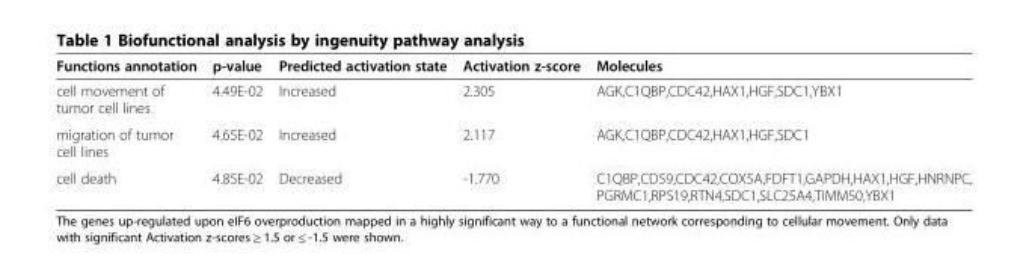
<table><thead><tr><td>Functions annotation</td><td>p-value</td><td>Predicted activation state</td><td>Activation z-score</td><td>Molecules</td></tr></thead><tbody><tr><td>cell movement of tumor cell lines</td><td>4.49E-02</td><td>Increased</td><td>2.305</td><td>AGK,C1QBP,CDC42,HAX1,HGF,SDC1,YBX1</td></tr><tr><td>migration of tumor cell lines</td><td>4.65E-02</td><td>Increased</td><td>2.117</td><td>AGK,C1QBP,CDC42,HAX1,HGF,SDC1</td></tr><tr><td>cell death</td><td>4.85E-02</td><td>Decreased</td><td>-1.770</td><td>C1QBP,CD59,CDC42,COX5A,FDFT1,GAPDH,HAX1,HGF,HNRNPC, PGRMC1,RPS19,RTN4,SDC1,SLC25A4,TIMM50,YBX1</td></tr></tbody></table>